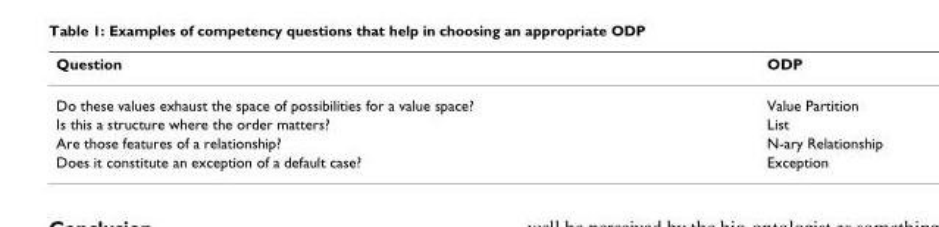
<table><thead><tr><td>Question</td><td>ODP</td></tr></thead><tbody><tr><td>Do these values exhaust the space of possibilities for a value space?</td><td>Value Partition</td></tr><tr><td>Is this a structure where the order matters?</td><td>List</td></tr><tr><td>Are those features of a relationship?</td><td>N-ary Relationship</td></tr><tr><td>Does it constitute an exception of a default case?</td><td>Exception</td></tr></tbody></table>